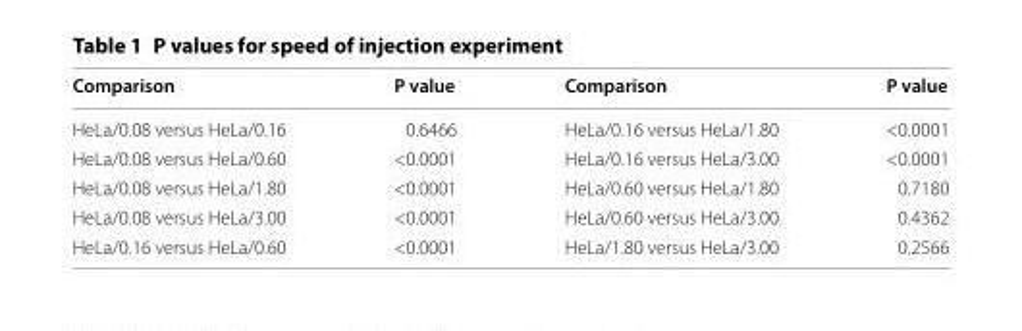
<table><thead><tr><td>Comparison</td><td>P value</td><td>Comparison</td><td>P value</td></tr></thead><tbody><tr><td>HeLa/0.08 versus HeLa/0.16</td><td>0.6466</td><td>HeLa/0.16 versus HeLa/1.80</td><td>&lt;0.0001</td></tr><tr><td>HeLa/0.08 versus HeLa/0.60</td><td>&lt;0.0001</td><td>HeLa/0.16 versus HeLa/3.00</td><td>&lt;0.0001</td></tr><tr><td>HeLa/0.08 versus HeLa/1.80</td><td>&lt;0.0001</td><td>HeLa/0.60 versus HeLa/1.80</td><td>0.7180</td></tr><tr><td>HeLa/0.08 versus HeLa/3.00</td><td>&lt;0.0001</td><td>HeLa/0.60 versus HeLa/3.00</td><td>0.4362</td></tr><tr><td>HeLa/0.16 versus HeLa/0.60</td><td>&lt;0.0001</td><td>HeLa/1.80 versus HeLa/3.00</td><td>0.2566</td></tr></tbody></table>